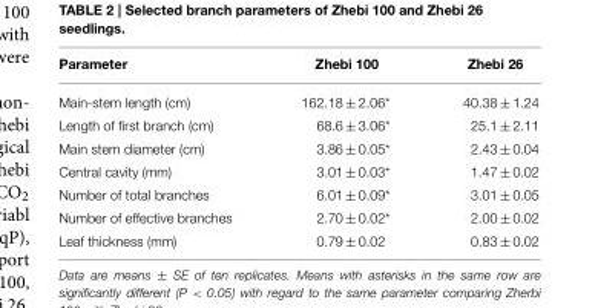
<table><thead><tr><td>Parameter</td><td>Zhebi 100</td><td>Zhebi 26</td></tr></thead><tbody><tr><td>Main-stem length (cm)</td><td>162.18 ± 2.06*</td><td>40.38 ± 1.24</td></tr><tr><td>Length of first branch (cm)</td><td>68.6 ± 3.06*</td><td>25.1 ± 2.11</td></tr><tr><td>Main stem diameter (cm)</td><td>3.86 ± 0.05*</td><td>2.43 ± 0.04</td></tr><tr><td>Central cavity (mm)</td><td>3.01 ± 0.03*</td><td>1.47 ± 0.02</td></tr><tr><td>Number of total branches</td><td>6.01 ± 0.09*</td><td>3.01 ± 0.05</td></tr><tr><td>Number of effective branches</td><td>2.70 ± 0.02*</td><td>2.00 ± 0.02</td></tr><tr><td>Leaf thickness (mm)</td><td>0.79 ± 0.02</td><td>0.83 ± 0.02</td></tr></tbody></table>